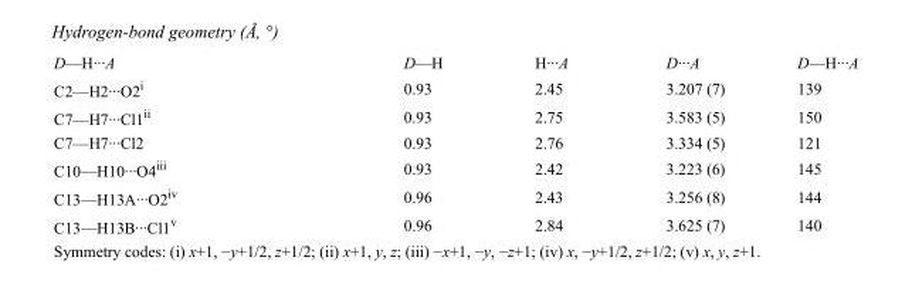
<table><tbody><tr><td>D—H···A</td><td>D—H</td><td>H···A</td><td>D···A</td><td>D—H···A</td></tr><tr><td>C2—H2···O2<sup>i</sup></td><td>0.93</td><td>2.45</td><td>3.207 (7)</td><td>139</td></tr><tr><td>C7—H7···Cl1<sup>ii</sup></td><td>0.93</td><td>2.75</td><td>3.583 (5)</td><td>150</td></tr><tr><td>C7—H7···Cl2</td><td>0.93</td><td>2.76</td><td>3.334 (5)</td><td>121</td></tr><tr><td>C10—H10···O4<sup>iii</sup></td><td>0.93</td><td>2.42</td><td>3.223 (6)</td><td>145</td></tr><tr><td>C13—H13A···O2<sup>iv</sup></td><td>0.96</td><td>2.43</td><td>3.256 (8)</td><td>144</td></tr><tr><td>C13—H13B···Cl1<sup>v</sup></td><td>0.96</td><td>2.84</td><td>3.625 (7)</td><td>140</td></tr></tbody></table>